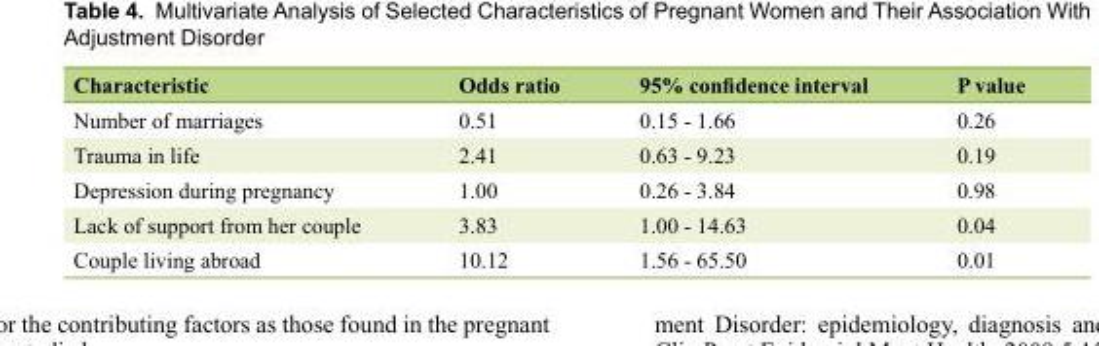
<table><thead><tr><td>Characteristic</td><td>Odds ratio</td><td>95% confidence interval</td><td>P value</td></tr></thead><tbody><tr><td>Number of marriages</td><td>0.51</td><td>0.15 - 1.66</td><td>0.26</td></tr><tr><td>Trauma in life</td><td>2.41</td><td>0.63 - 9.23</td><td>0.19</td></tr><tr><td>Depression during pregnancy</td><td>1.00</td><td>0.26 - 3.84</td><td>0.98</td></tr><tr><td>Lack of support from her couple</td><td>3.83</td><td>1.00 - 14.63</td><td>0.04</td></tr><tr><td>Couple living abroad</td><td>10.12</td><td>1.56 - 65.50</td><td>0.01</td></tr></tbody></table>